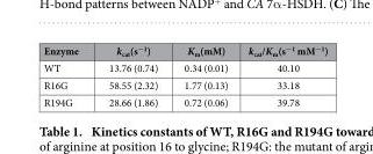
<table><thead><tr><td>Enzyme</td><td>k<sub>cat</sub>(s<sup>−1</sup>)</td><td>K<sub>m</sub>(mM)</td><td>k<sub>cat</sub>/K<sub>m</sub>(s<sup>−1</sup> mM<sup>−1</sup>)</td></tr></thead><tbody><tr><td>WT</td><td>13.76 (0.74)</td><td>0.34 (0.01)</td><td>40.10</td></tr><tr><td>R16G</td><td>58.55 (2.32)</td><td>1.77 (0.13)</td><td>33.18</td></tr><tr><td>R194G</td><td>28.66 (1.86)</td><td>0.72 (0.06)</td><td>39.78</td></tr></tbody></table>